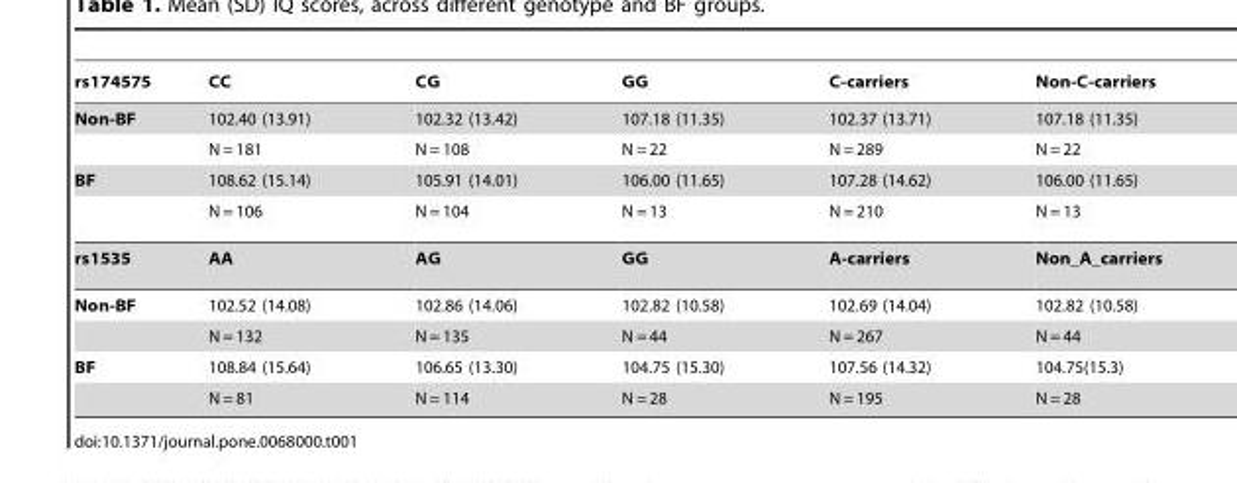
<table><thead><tr><td>rs174575</td><td>CC</td><td>CG</td><td>GG</td><td>C-carriers</td><td>Non-C-carriers</td></tr></thead><tbody><tr><td rowspan="2">Non-BF</td><td>102.40 (13.91)</td><td>102.32 (13.42)</td><td>107.18 (11.35)</td><td>102.37 (13.71)</td><td>107.18 (11.35)</td></tr><tr><td>N = 181</td><td>N = 108</td><td>N = 22</td><td>N = 289</td><td>N = 22</td></tr><tr><td rowspan="2">BF</td><td>108.62 (15.14)</td><td>105.91 (14.01)</td><td>106.00 (11.65)</td><td>107.28 (14.62)</td><td>106.00 (11.65)</td></tr><tr><td>N = 106</td><td>N = 104</td><td>N = 13</td><td>N = 210</td><td>N = 13</td></tr><tr><td>rs1535</td><td>AA</td><td>AG</td><td>GG</td><td>A-carriers</td><td>Non_A_carriers</td></tr><tr><td rowspan="2">Non-BF</td><td>102.52 (14.08)</td><td>102.86 (14.06)</td><td>102.82 (10.58)</td><td>102.69 (14.04)</td><td>102.82 (10.58)</td></tr><tr><td>N = 132</td><td>N = 135</td><td>N = 44</td><td>N = 267</td><td>N = 44</td></tr><tr><td rowspan="2">BF</td><td>108.84 (15.64)</td><td>106.65 (13.30)</td><td>104.75 (15.30)</td><td>107.56 (14.32)</td><td>104.75(15.3)</td></tr><tr><td>N = 81</td><td>N = 114</td><td>N = 28</td><td>N = 195</td><td>N = 28</td></tr></tbody></table>